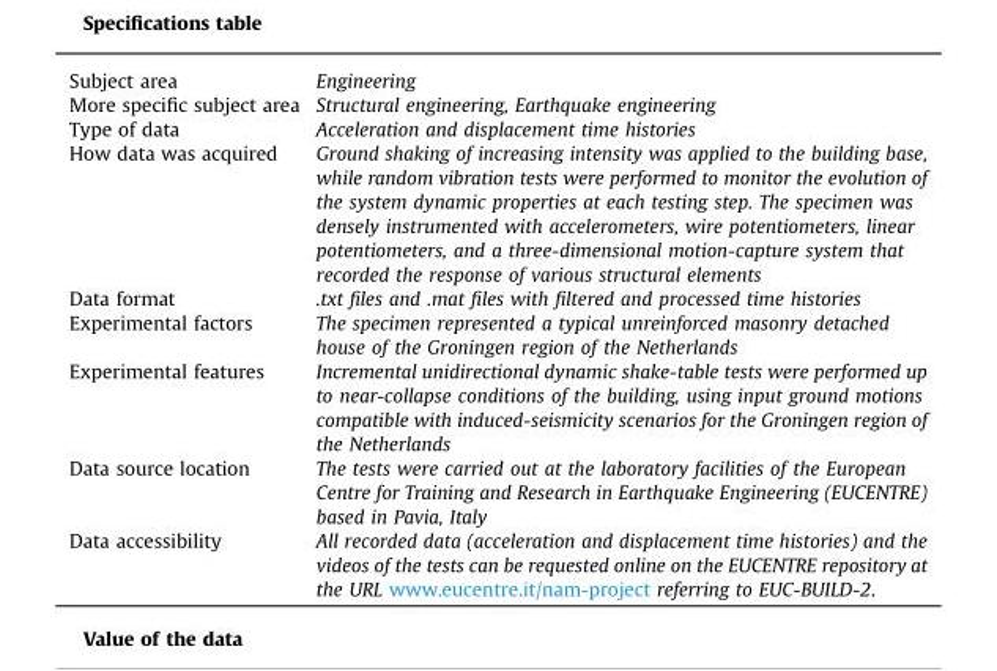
<table><tbody><tr><td>Subject area</td><td>Engineering</td></tr><tr><td>More specific subject area</td><td>Structural engineering, Earthquake engineering</td></tr><tr><td>Type of data</td><td>Acceleration and displacement time histories</td></tr><tr><td>How data was acquired</td><td>Ground shaking of increasing intensity was applied to the building base, while random vibration tests were performed to monitor the evolution of the system dynamic properties at each testing step. The specimen was densely instrumented with accelerometers, wire potentiometers, linear potentiometers, and a three-dimensional motion-capture system that recorded the response of various structural elements</td></tr><tr><td>Data format</td><td>.txt files and .mat files with filtered and processed time histories</td></tr><tr><td>Experimental factors</td><td>The specimen represented a typical unreinforced masonry detached house of the Groningen region of the Netherlands</td></tr><tr><td>Experimental features</td><td>Incremental unidirectional dynamic shake-table tests were performed up to near-collapse conditions of the building, using input ground motions compatible with induced-seismicity scenarios for the Groningen region of the Netherlands</td></tr><tr><td>Data source location</td><td>The tests were carried out at the laboratory facilities of the European Centre for Training and Research in Earthquake Engineering (EUCENTRE) based in Pavia, Italy</td></tr><tr><td>Data accessibility</td><td>All recorded data (acceleration and displacement time histories) and the videos of the tests can be requested online on the EUCENTRE repository at the URL www.eucentre.it/nam-project referring to EUC-BUILD-2.</td></tr></tbody></table>